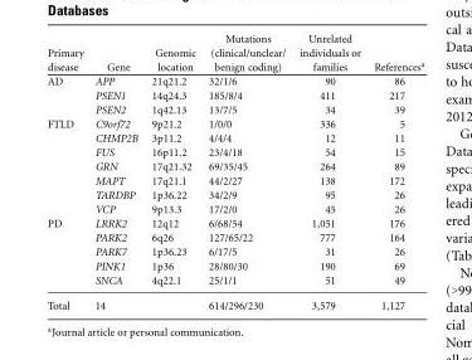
<table><thead><tr><td>Primary disease</td><td>Gene</td><td>Genomic location</td><td>(clinical/unclear/ benign coding)</td><td>individuals or families</td><td>References<sup>a</sup></td></tr></thead><tbody><tr><td rowspan="3">AD</td><td>APP</td><td>21q21.2</td><td>32/1/6</td><td>90</td><td>86</td></tr><tr><td>PSEN1</td><td>14q24.3</td><td>185/8/4</td><td>411</td><td>217</td></tr><tr><td>PSEN2</td><td>1q42.13</td><td>13/7/5</td><td>34</td><td>39</td></tr><tr><td rowspan="7">FTLD</td><td>C9orf72</td><td>9p21.2</td><td>1/0/0</td><td>336</td><td>5</td></tr><tr><td>CHMP2B</td><td>3p11.2</td><td>4/4/4</td><td>12</td><td>11</td></tr><tr><td>FUS</td><td>16p11.2</td><td>23/4/18</td><td>54</td><td>15</td></tr><tr><td>GRN</td><td>17q21.32</td><td>69/35/45</td><td>264</td><td>89</td></tr><tr><td>MAPT</td><td>17q21.1</td><td>44/2/27</td><td>138</td><td>172</td></tr><tr><td>TARDBP</td><td>1p36.22</td><td>34/2/9</td><td>95</td><td>26</td></tr><tr><td>VCP</td><td>9p13.3</td><td>17/2/0</td><td>45</td><td>26</td></tr><tr><td rowspan="5">PD</td><td>LRRK2</td><td>12q12</td><td>6/68/54</td><td>1,051</td><td>176</td></tr><tr><td>PARK2</td><td>6q26</td><td>127/65/22</td><td>777</td><td>164</td></tr><tr><td>PARK7</td><td>1p36.23</td><td>6/17/5</td><td>31</td><td>26</td></tr><tr><td>PINK1</td><td>1p36</td><td>28/80/30</td><td>190</td><td>69</td></tr><tr><td>SNCA</td><td>4q22.1</td><td>25/1/1</td><td>51</td><td>49</td></tr><tr><td>Total</td><td>14</td><td></td><td>614/296/230</td><td>3,579</td><td>1,127</td></tr></tbody></table>